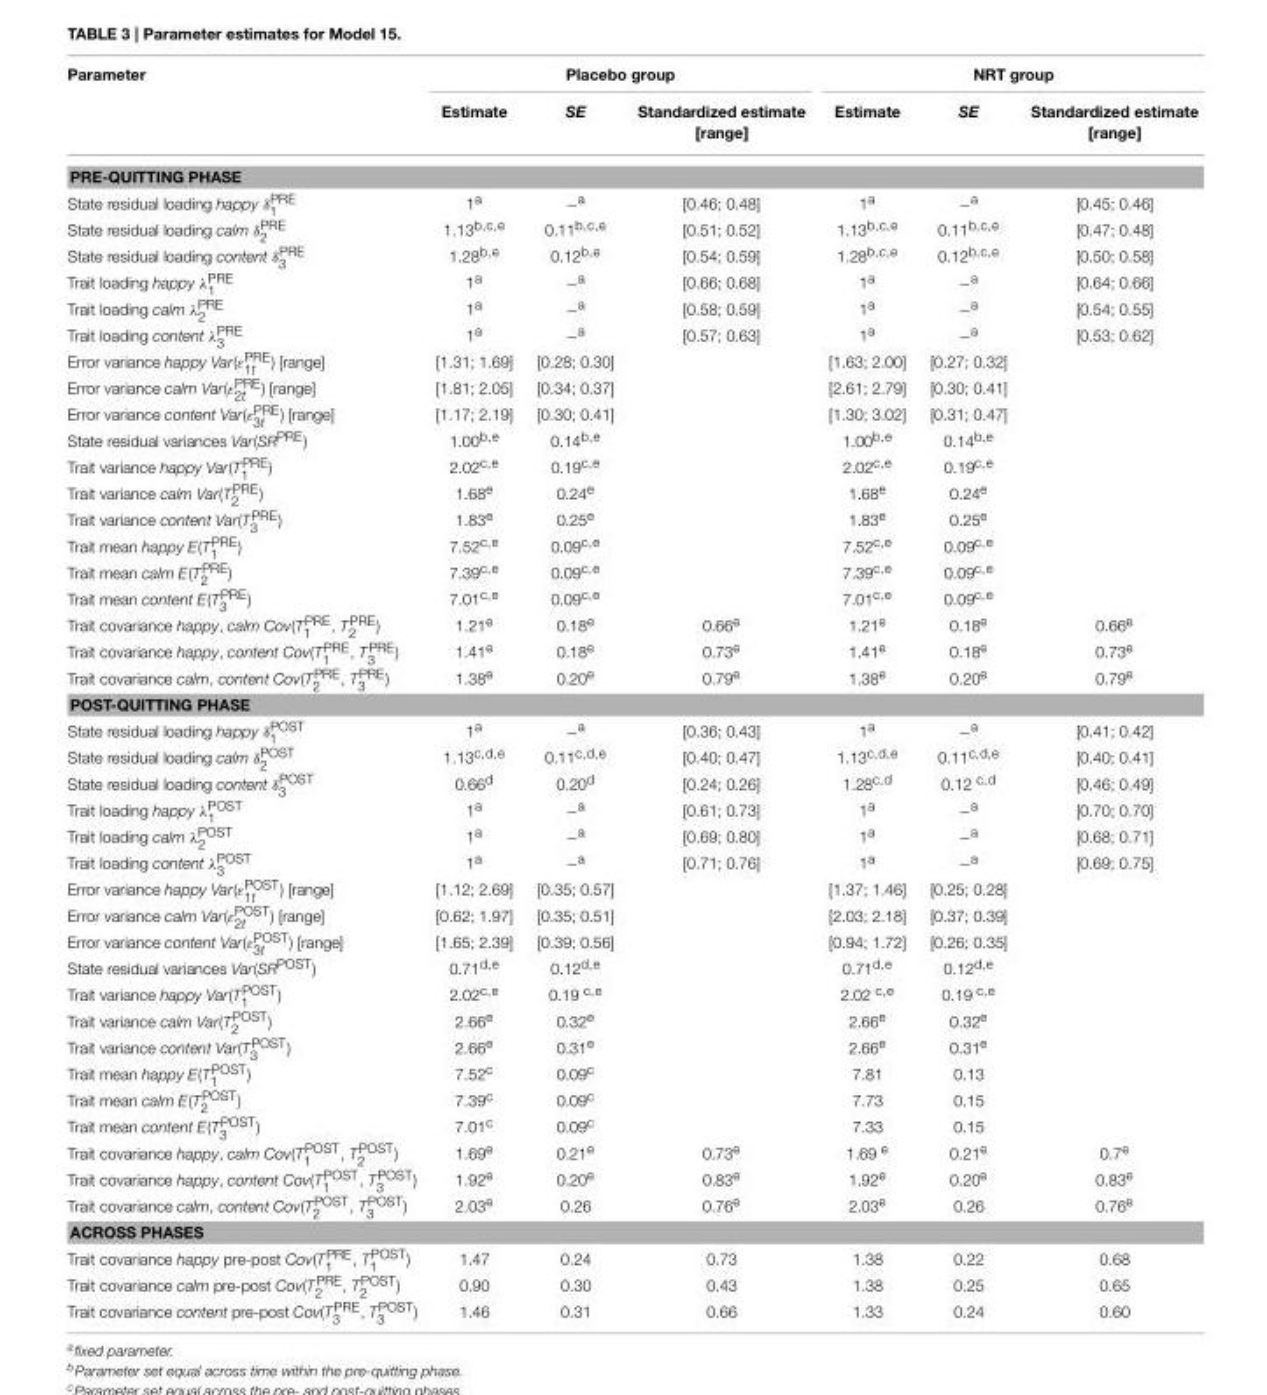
<table><thead><tr><td rowspan="2">Parameter</td><td colspan="3">Placebo group</td><td colspan="3">NRT group</td></tr><tr><td>Estimate</td><td>SE</td><td>Standardized estimate [range]</td><td>Estimate</td><td>SE</td><td>Standardized estimate [range]</td></tr></thead><tbody><tr><td colspan="7">PRE-QUITTING PHASE</td></tr><tr><td>State residual loading happy δ<sup>PRE</sup> <sub>1</sub></td><td>1<sup>a</sup></td><td>−<sup>a</sup></td><td>[0.46; 0.48]</td><td>1<sup>a</sup></td><td>−<sup>a</sup></td><td>[0.45; 0.46]</td></tr><tr><td>State residual loading calm δ<sup>PRE</sup> <sub>2</sub></td><td>1.13<sup>b,c,e</sup></td><td>0.11<sup>b,c,e</sup></td><td>[0.51; 0.52]</td><td>1.13<sup>b,c,e</sup></td><td>0.11<sup>b,c,e</sup></td><td>[0.47; 0.48]</td></tr><tr><td>State residual loading content δ<sup>PRE</sup> <sub>3</sub></td><td>1.28<sup>b,e</sup></td><td>0.12<sup>b,e</sup></td><td>[0.54; 0.59]</td><td>1.28<sup>b,c,e</sup></td><td>0.12<sup>b,c,e</sup></td><td>[0.50; 0.58]</td></tr><tr><td>Trait loading happy λ<sup>PRE</sup> <sub>1</sub></td><td>1<sup>a</sup></td><td>−<sup>a</sup></td><td>[0.66; 0.68]</td><td>1<sup>a</sup></td><td>−<sup>a</sup></td><td>[0.64; 0.66]</td></tr><tr><td>Trait loading calm λ<sup>PRE</sup> <sub>2</sub></td><td>1<sup>a</sup></td><td>−<sup>a</sup></td><td>[0.58; 0.59]</td><td>1<sup>a</sup></td><td>−<sup>a</sup></td><td>[0.54; 0.55]</td></tr><tr><td>Trait loading content λ<sup>PRE</sup> <sub>3</sub></td><td>1<sup>a</sup></td><td>−<sup>a</sup></td><td>[0.57; 0.63]</td><td>1<sup>a</sup></td><td>−<sup>a</sup></td><td>[0.53; 0.62]</td></tr><tr><td>Error variance happy Var(ε<sup>PRE</sup> <sub>1t</sub> ) [range]</td><td>[1.31; 1.69]</td><td>[0.28; 0.30]</td><td></td><td>[1.63; 2.00]</td><td>[0.27; 0.32]</td><td></td></tr><tr><td>Error variance calm Var(ε<sup>PRE</sup> <sub>2t</sub> ) [range]</td><td>[1.81; 2.05]</td><td>[0.34; 0.37]</td><td></td><td>[2.61; 2.79]</td><td>[0.30; 0.41]</td><td></td></tr><tr><td>Error variance content Var(ε<sup>PRE</sup> <sub>3t</sub> ) [range]</td><td>[1.17; 2.19]</td><td>[0.30; 0.41]</td><td></td><td>[1.30; 3.02]</td><td>[0.31; 0.47]</td><td></td></tr><tr><td>State residual variances Var(SR<sup>PRE</sup>)</td><td>1.00<sup>b,e</sup></td><td>0.14<sup>b,e</sup></td><td></td><td>1.00<sup>b,e</sup></td><td>0.14<sup>b,e</sup></td><td></td></tr><tr><td>Trait variance happy Var(T<sup>PRE</sup> <sub>1</sub> )</td><td>2.02<sup>c,e</sup></td><td>0.19<sup>c,e</sup></td><td></td><td>2.02<sup>c,e</sup></td><td>0.19<sup>c,e</sup></td><td></td></tr><tr><td>Trait variance calm Var(T<sup>PRE</sup> <sub>2</sub> )</td><td>1.68<sup>e</sup></td><td>0.24<sup>e</sup></td><td></td><td>1.68<sup>e</sup></td><td>0.24<sup>e</sup></td><td></td></tr><tr><td>Trait variance content Var(T<sup>PRE</sup> <sub>3</sub> )</td><td>1.83<sup>e</sup></td><td>0.25<sup>e</sup></td><td></td><td>1.83<sup>e</sup></td><td>0.25<sup>e</sup></td><td></td></tr><tr><td>Trait mean happy E(T<sup>PRE</sup> <sub>1</sub> )</td><td>7.52<sup>c,e</sup></td><td>0.09<sup>c,e</sup></td><td></td><td>7.52<sup>c,e</sup></td><td>0.09<sup>c,e</sup></td><td></td></tr><tr><td>Trait mean calm E(T<sup>PRE</sup> <sub>2</sub> )</td><td>7.39<sup>c,e</sup></td><td>0.09<sup>c,e</sup></td><td></td><td>7.39<sup>c,e</sup></td><td>0.09<sup>c,e</sup></td><td></td></tr><tr><td>Trait mean content E(T<sup>PRE</sup> <sub>3</sub> )</td><td>7.01<sup>c,e</sup></td><td>0.09<sup>c,e</sup></td><td></td><td>7.01<sup>c,e</sup></td><td>0.09<sup>c,e</sup></td><td></td></tr><tr><td>Trait covariance happy, calm Cov(T<sup>PRE</sup> <sub>1</sub> , T<sup>PRE</sup> <sub>2</sub> )</td><td>1.21<sup>e</sup></td><td>0.18<sup>e</sup></td><td>0.66<sup>e</sup></td><td>1.21<sup>e</sup></td><td>0.18<sup>e</sup></td><td>0.66<sup>e</sup></td></tr><tr><td>Trait covariance happy, content Cov(T<sup>PRE</sup> <sub>1</sub> , T<sup>PRE</sup> <sub>3</sub> )</td><td>1.41<sup>e</sup></td><td>0.18<sup>e</sup></td><td>0.73<sup>e</sup></td><td>1.41<sup>e</sup></td><td>0.18<sup>e</sup></td><td>0.73<sup>e</sup></td></tr><tr><td>Trait covariance calm, content Cov(T<sup>PRE</sup> <sub>2</sub> , T<sup>PRE</sup> <sub>3</sub> )</td><td>1.38<sup>e</sup></td><td>0.20<sup>e</sup></td><td>0.79<sup>e</sup></td><td>1.38<sup>e</sup></td><td>0.20<sup>e</sup></td><td>0.79<sup>e</sup></td></tr><tr><td colspan="7">POST-QUITTING PHASE</td></tr><tr><td>State residual loading happy δ<sup>POST</sup> <sub>1</sub></td><td>1<sup>a</sup></td><td>−<sup>a</sup></td><td>[0.36; 0.43]</td><td>1<sup>a</sup></td><td>−<sup>a</sup></td><td>[0.41; 0.42]</td></tr><tr><td>State residual loading calm δ<sup>POST</sup> <sub>2</sub></td><td>1.13<sup>c,d,e</sup></td><td>0.11<sup>c,d,e</sup></td><td>[0.40; 0.47]</td><td>1.13<sup>c,d,e</sup></td><td>0.11<sup>c,d,e</sup></td><td>[0.40; 0.41]</td></tr><tr><td>State residual loading content δ<sup>POST</sup> <sub>3</sub></td><td>0.66<sup>d</sup></td><td>0.20<sup>d</sup></td><td>[0.24; 0.26]</td><td>1.28<sup>c,d</sup></td><td>0.12 <sup>c,d</sup></td><td>[0.46; 0.49]</td></tr><tr><td>Trait loading happy λ<sup>POST</sup> <sub>1</sub></td><td>1<sup>a</sup></td><td>−<sup>a</sup></td><td>[0.61; 0.73]</td><td>1<sup>a</sup></td><td>−<sup>a</sup></td><td>[0.70; 0.70]</td></tr><tr><td>Trait loading calm λ<sup>POST</sup> <sub>2</sub></td><td>1<sup>a</sup></td><td>−<sup>a</sup></td><td>[0.69; 0.80]</td><td>1<sup>a</sup></td><td>−<sup>a</sup></td><td>[0.68; 0.71]</td></tr><tr><td>Trait loading content λ<sup>POST</sup> <sub>3</sub></td><td>1<sup>a</sup></td><td>−<sup>a</sup></td><td>[0.71; 0.76]</td><td>1<sup>a</sup></td><td>−<sup>a</sup></td><td>[0.69; 0.75]</td></tr><tr><td>Error variance happy Var(ε<sup>POST</sup> <sub>1t</sub> ) [range]</td><td>[1.12; 2.69]</td><td>[0.35; 0.57]</td><td></td><td>[1.37; 1.46]</td><td>[0.25; 0.28]</td><td></td></tr><tr><td>Error variance calm Var(ε<sup>POST</sup> <sub>2t</sub> ) [range]</td><td>[0.62; 1.97]</td><td>[0.35; 0.51]</td><td></td><td>[2.03; 2.18]</td><td>[0.37; 0.39]</td><td></td></tr><tr><td>Error variance content Var(ε<sup>POST</sup> <sub>3t</sub> ) [range]</td><td>[1.65; 2.39]</td><td>[0.39; 0.56]</td><td></td><td>[0.94; 1.72]</td><td>[0.26; 0.35]</td><td></td></tr><tr><td>State residual variances Var(SR<sup>POST</sup>)</td><td>0.71<sup>d,e</sup></td><td>0.12<sup>d,e</sup></td><td></td><td>0.71<sup>d,e</sup></td><td>0.12<sup>d,e</sup></td><td></td></tr><tr><td>Trait variance happy Var(T<sup>POST</sup> <sub>1</sub> )</td><td>2.02<sup>c,e</sup></td><td>0.19 <sup>c,e</sup></td><td></td><td>2.02 <sup>c,e</sup></td><td>0.19 <sup>c,e</sup></td><td></td></tr><tr><td>Trait variance calm Var(T<sup>POST</sup> <sub>2</sub> )</td><td>2.66<sup>e</sup></td><td>0.32<sup>e</sup></td><td></td><td>2.66<sup>e</sup></td><td>0.32<sup>e</sup></td><td></td></tr><tr><td>Trait variance content Var(T<sup>POST</sup> <sub>3</sub> )</td><td>2.66<sup>e</sup></td><td>0.31<sup>e</sup></td><td></td><td>2.66<sup>e</sup></td><td>0.31<sup>e</sup></td><td></td></tr><tr><td>Trait mean happy E(T<sup>POST</sup> <sub>1</sub> )</td><td>7.52<sup>c</sup></td><td>0.09<sup>c</sup></td><td></td><td>7.81</td><td>0.13</td><td></td></tr><tr><td>Trait mean calm E(T<sup>POST</sup> <sub>2</sub> )</td><td>7.39<sup>c</sup></td><td>0.09<sup>c</sup></td><td></td><td>7.73</td><td>0.15</td><td></td></tr><tr><td>Trait mean content E(T<sup>POST</sup> <sub>3</sub> )</td><td>7.01<sup>c</sup></td><td>0.09<sup>c</sup></td><td></td><td>7.33</td><td>0.15</td><td></td></tr><tr><td>Trait covariance happy, calm Cov(T<sup>POST</sup> <sub>1</sub> , T<sup>POST</sup> <sub>2</sub> )</td><td>1.69<sup>e</sup></td><td>0.21<sup>e</sup></td><td>0.73<sup>e</sup></td><td>1.69 <sup>e</sup></td><td>0.21<sup>e</sup></td><td>0.7<sup>e</sup></td></tr><tr><td>Trait covariance happy, content Cov(T<sup>POST</sup> <sub>1</sub> , T<sup>POST</sup> <sub>3</sub> )</td><td>1.92<sup>e</sup></td><td>0.20<sup>e</sup></td><td>0.83<sup>e</sup></td><td>1.92<sup>e</sup></td><td>0.20<sup>e</sup></td><td>0.83<sup>e</sup></td></tr><tr><td>Trait covariance calm, content Cov(T<sup>POST</sup> <sub>2</sub> , T<sup>POST</sup> <sub>3</sub> )</td><td>2.03<sup>e</sup></td><td>0.26</td><td>0.76<sup>e</sup></td><td>2.03<sup>e</sup></td><td>0.26</td><td>0.76<sup>e</sup></td></tr><tr><td colspan="7">ACROSS PHASES</td></tr><tr><td>Trait covariance happy pre-post Cov(T<sup>PRE</sup> <sub>1</sub> , T<sup>POST</sup> <sub>1</sub> )</td><td>1.47</td><td>0.24</td><td>0.73</td><td>1.38</td><td>0.22</td><td>0.68</td></tr><tr><td>Trait covariance calm pre-post Cov(T<sup>PRE</sup> <sub>2</sub> , T<sup>POST</sup> <sub>2</sub> )</td><td>0.90</td><td>0.30</td><td>0.43</td><td>1.38</td><td>0.25</td><td>0.65</td></tr><tr><td>Trait covariance content pre-post Cov(T<sup>PRE</sup> <sub>3</sub> , T<sup>POST</sup> <sub>3</sub> )</td><td>1.46</td><td>0.31</td><td>0.66</td><td>1.33</td><td>0.24</td><td>0.60</td></tr></tbody></table>